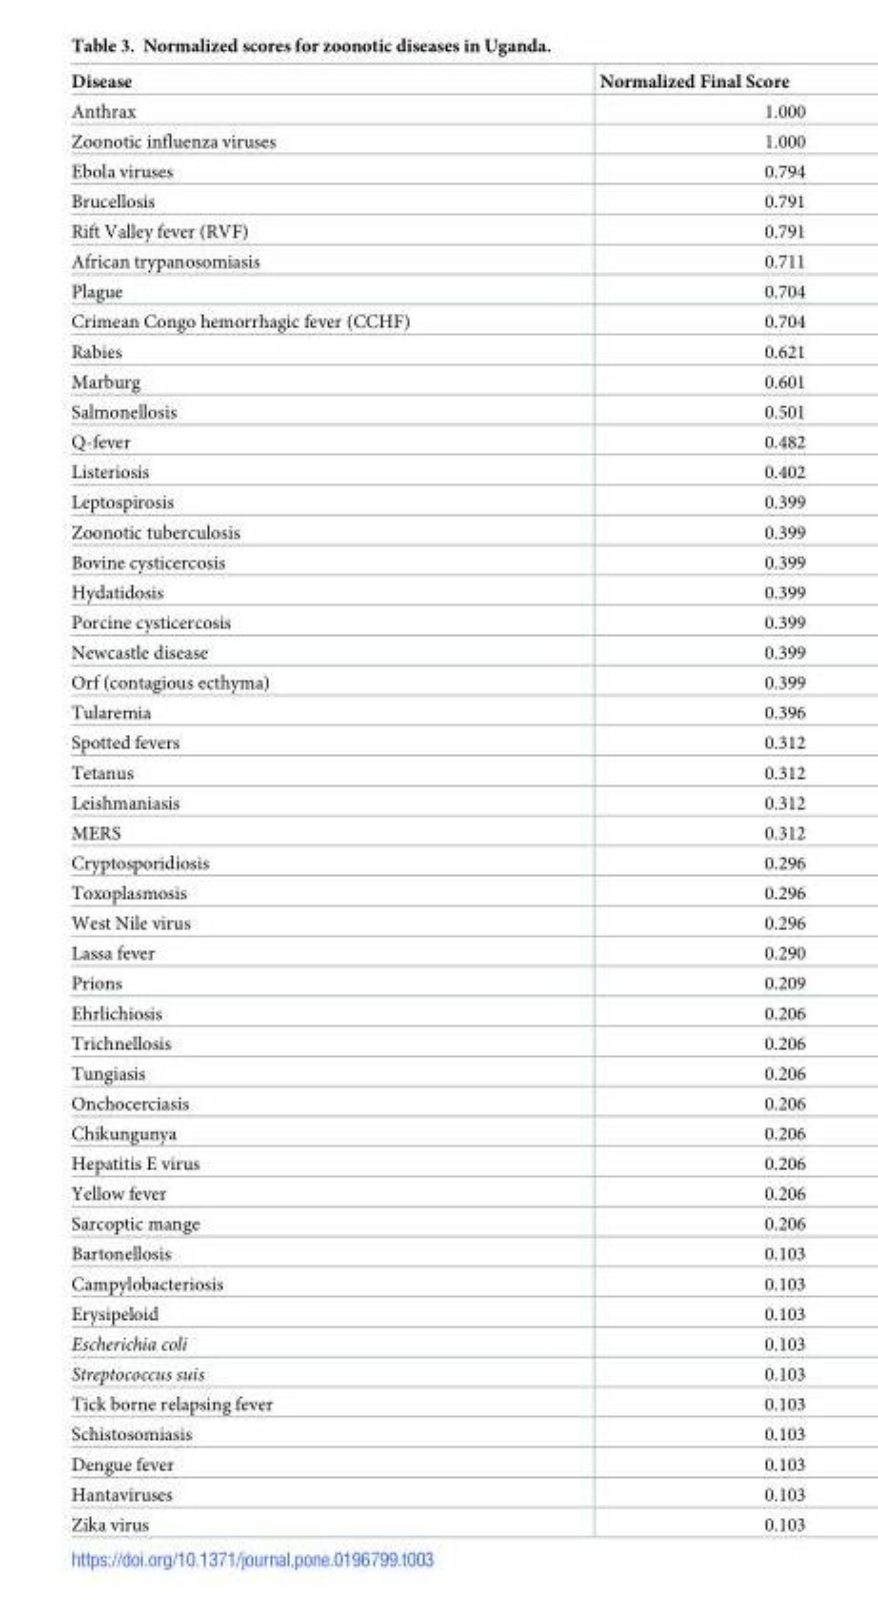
<table><thead><tr><td>Disease</td><td>Normalized Final Score</td></tr></thead><tbody><tr><td>Anthrax</td><td>1.000</td></tr><tr><td>Zoonotic influenza viruses</td><td>1.000</td></tr><tr><td>Ebola viruses</td><td>0.794</td></tr><tr><td>Brucellosis</td><td>0.791</td></tr><tr><td>Rift Valley fever (RVF)</td><td>0.791</td></tr><tr><td>African trypanosomiasis</td><td>0.711</td></tr><tr><td>Plague</td><td>0.704</td></tr><tr><td>Crimean Congo hemorrhagic fever (CCHF)</td><td>0.704</td></tr><tr><td>Rabies</td><td>0.621</td></tr><tr><td>Marburg</td><td>0.601</td></tr><tr><td>Salmonellosis</td><td>0.501</td></tr><tr><td>Q-fever</td><td>0.482</td></tr><tr><td>Listeriosis</td><td>0.402</td></tr><tr><td>Leptospirosis</td><td>0.399</td></tr><tr><td>Zoonotic tuberculosis</td><td>0.399</td></tr><tr><td>Bovine cysticercosis</td><td>0.399</td></tr><tr><td>Hydatidosis</td><td>0.399</td></tr><tr><td>Porcine cysticercosis</td><td>0.399</td></tr><tr><td>Newcastle disease</td><td>0.399</td></tr><tr><td>Orf (contagious ecthyma)</td><td>0.399</td></tr><tr><td>Tularemia</td><td>0.396</td></tr><tr><td>Spotted fevers</td><td>0.312</td></tr><tr><td>Tetanus</td><td>0.312</td></tr><tr><td>Leishmaniasis</td><td>0.312</td></tr><tr><td>MERS</td><td>0.312</td></tr><tr><td>Cryptosporidiosis</td><td>0.296</td></tr><tr><td>Toxoplasmosis</td><td>0.296</td></tr><tr><td>West Nile virus</td><td>0.296</td></tr><tr><td>Lassa fever</td><td>0.290</td></tr><tr><td>Prions</td><td>0.209</td></tr><tr><td>Ehrlichiosis</td><td>0.206</td></tr><tr><td>Trichnellosis</td><td>0.206</td></tr><tr><td>Tungiasis</td><td>0.206</td></tr><tr><td>Onchocerciasis</td><td>0.206</td></tr><tr><td>Chikungunya</td><td>0.206</td></tr><tr><td>Hepatitis E virus</td><td>0.206</td></tr><tr><td>Yellow fever</td><td>0.206</td></tr><tr><td>Sarcoptic mange</td><td>0.206</td></tr><tr><td>Bartonellosis</td><td>0.103</td></tr><tr><td>Campylobacteriosis</td><td>0.103</td></tr><tr><td>Erysipeloid</td><td>0.103</td></tr><tr><td>Escherichia coli</td><td>0.103</td></tr><tr><td>Streptococcus suis</td><td>0.103</td></tr><tr><td>Tick borne relapsing fever</td><td>0.103</td></tr><tr><td>Schistosomiasis</td><td>0.103</td></tr><tr><td>Dengue fever</td><td>0.103</td></tr><tr><td>Hantaviruses</td><td>0.103</td></tr><tr><td>Zika virus</td><td>0.103</td></tr></tbody></table>